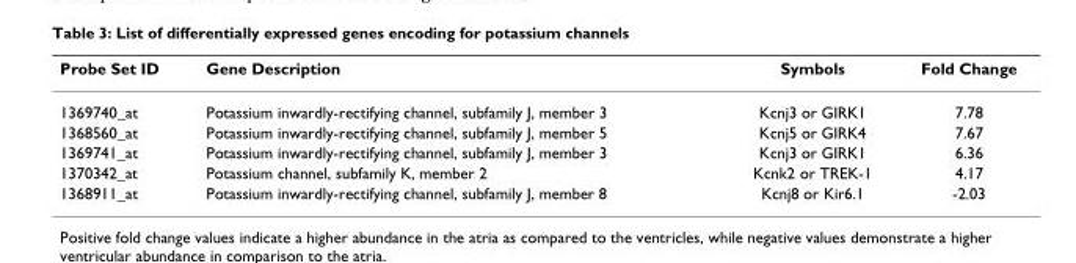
<table><thead><tr><td>Probe Set ID</td><td>Gene Description</td><td>Symbols</td><td>Fold Change</td></tr></thead><tbody><tr><td>1369740_at</td><td>Potassium inwardly-rectifying channel, subfamily J, member 3</td><td>Kcnj3 or GIRK1</td><td>7.78</td></tr><tr><td>1368560_at</td><td>Potassium inwardly-rectifying channel, subfamily J, member 5</td><td>Kcnj5 or GIRK4</td><td>7.67</td></tr><tr><td>1369741_at</td><td>Potassium inwardly-rectifying channel, subfamily J, member 3</td><td>Kcnj3 or GIRK1</td><td>6.36</td></tr><tr><td>1370342_at</td><td>Potassium channel, subfamily K, member 2</td><td>Kcnk2 or TREK-1</td><td>4.17</td></tr><tr><td>1368911_at</td><td>Potassium inwardly-rectifying channel, subfamily J, member 8</td><td>Kcnj8 or Kir6.1</td><td>-2.03</td></tr></tbody></table>